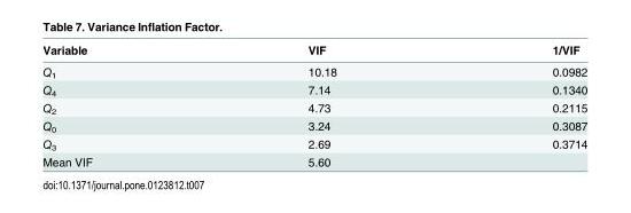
<table><thead><tr><td>Variable</td><td>VIF</td><td>1/VIF</td></tr></thead><tbody><tr><td>Q<sub>1</sub></td><td>10.18</td><td>0.0982</td></tr><tr><td>Q<sub>4</sub></td><td>7.14</td><td>0.1340</td></tr><tr><td>Q<sub>2</sub></td><td>4.73</td><td>0.2115</td></tr><tr><td>Q<sub>0</sub></td><td>3.24</td><td>0.3087</td></tr><tr><td>Q<sub>3</sub></td><td>2.69</td><td>0.3714</td></tr><tr><td>Mean VIF</td><td>5.60</td><td></td></tr></tbody></table>